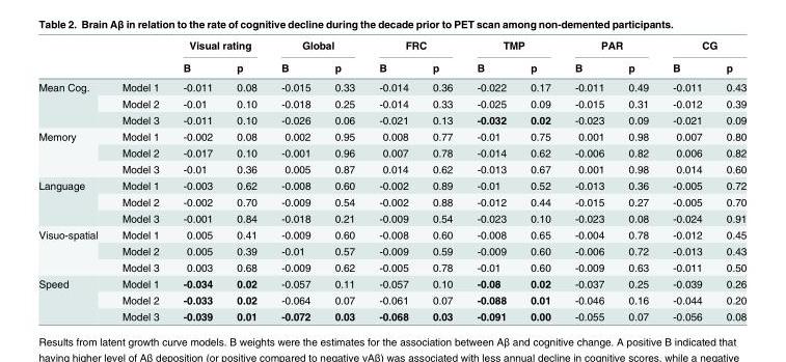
<table><thead><tr><td rowspan="2"></td><td rowspan="2"></td><td colspan="2">Visual rating</td><td colspan="2">Global</td><td colspan="2">FRC</td><td colspan="2">TMP</td><td colspan="2">PAR</td><td colspan="2">CG</td></tr><tr><td>B</td><td>p</td><td>B</td><td>p</td><td>B</td><td>p</td><td>B</td><td>p</td><td>B</td><td>p</td><td>B</td><td>p</td></tr></thead><tbody><tr><td rowspan="3">Mean Cog.</td><td>Model 1</td><td>-0.011</td><td>0.08</td><td>-0.015</td><td>0.33</td><td>-0.014</td><td>0.36</td><td>-0.022</td><td>0.17</td><td>-0.011</td><td>0.49</td><td>-0.011</td><td>0.43</td></tr><tr><td>Model 2</td><td>-0.01</td><td>0.10</td><td>-0.018</td><td>0.25</td><td>-0.014</td><td>0.33</td><td>-0.025</td><td>0.09</td><td>-0.015</td><td>0.31</td><td>-0.012</td><td>0.39</td></tr><tr><td>Model 3</td><td>-0.011</td><td>0.10</td><td>-0.026</td><td>0.06</td><td>-0.021</td><td>0.13</td><td>-0.032</td><td>0.02</td><td>-0.023</td><td>0.09</td><td>-0.021</td><td>0.09</td></tr><tr><td rowspan="3">Memory</td><td>Model 1</td><td>-0.002</td><td>0.08</td><td>0.002</td><td>0.95</td><td>0.008</td><td>0.77</td><td>-0.01</td><td>0.75</td><td>0.001</td><td>0.98</td><td>0.007</td><td>0.80</td></tr><tr><td>Model 2</td><td>-0.017</td><td>0.10</td><td>-0.001</td><td>0.96</td><td>0.007</td><td>0.78</td><td>-0.014</td><td>0.62</td><td>-0.006</td><td>0.82</td><td>0.006</td><td>0.82</td></tr><tr><td>Model 3</td><td>-0.01</td><td>0.36</td><td>0.005</td><td>0.87</td><td>0.014</td><td>0.62</td><td>-0.013</td><td>0.67</td><td>0.001</td><td>0.98</td><td>0.014</td><td>0.60</td></tr><tr><td rowspan="3">Language</td><td>Model 1</td><td>-0.003</td><td>0.62</td><td>-0.008</td><td>0.60</td><td>-0.002</td><td>0.89</td><td>-0.01</td><td>0.52</td><td>-0.013</td><td>0.36</td><td>-0.005</td><td>0.72</td></tr><tr><td>Model 2</td><td>-0.002</td><td>0.70</td><td>-0.009</td><td>0.54</td><td>-0.002</td><td>0.88</td><td>-0.012</td><td>0.44</td><td>-0.015</td><td>0.27</td><td>-0.005</td><td>0.70</td></tr><tr><td>Model 3</td><td>-0.001</td><td>0.84</td><td>-0.018</td><td>0.21</td><td>-0.009</td><td>0.54</td><td>-0.023</td><td>0.10</td><td>-0.023</td><td>0.08</td><td>-0.024</td><td>0.91</td></tr><tr><td rowspan="3">Visuo-spatial</td><td>Model 1</td><td>0.005</td><td>0.41</td><td>-0.009</td><td>0.60</td><td>-0.008</td><td>0.60</td><td>-0.008</td><td>0.65</td><td>-0.004</td><td>0.78</td><td>-0.012</td><td>0.45</td></tr><tr><td>Model 2</td><td>0.005</td><td>0.39</td><td>-0.01</td><td>0.57</td><td>-0.009</td><td>0.59</td><td>-0.009</td><td>0.60</td><td>-0.006</td><td>0.72</td><td>-0.013</td><td>0.43</td></tr><tr><td>Model 3</td><td>0.003</td><td>0.68</td><td>-0.009</td><td>0.62</td><td>-0.005</td><td>0.78</td><td>-0.01</td><td>0.60</td><td>-0.009</td><td>0.63</td><td>-0.011</td><td>0.50</td></tr><tr><td rowspan="3">Speed</td><td>Model 1</td><td>-0.034</td><td>0.02</td><td>-0.057</td><td>0.11</td><td>-0.057</td><td>0.10</td><td>-0.08</td><td>0.02</td><td>-0.037</td><td>0.25</td><td>-0.039</td><td>0.26</td></tr><tr><td>Model 2</td><td>-0.033</td><td>0.02</td><td>-0.064</td><td>0.07</td><td>-0.061</td><td>0.07</td><td>-0.088</td><td>0.01</td><td>-0.046</td><td>0.16</td><td>-0.044</td><td>0.20</td></tr><tr><td>Model 3</td><td>-0.039</td><td>0.01</td><td>-0.072</td><td>0.03</td><td>-0.068</td><td>0.03</td><td>-0.091</td><td>0.00</td><td>-0.055</td><td>0.07</td><td>-0.056</td><td>0.08</td></tr></tbody></table>